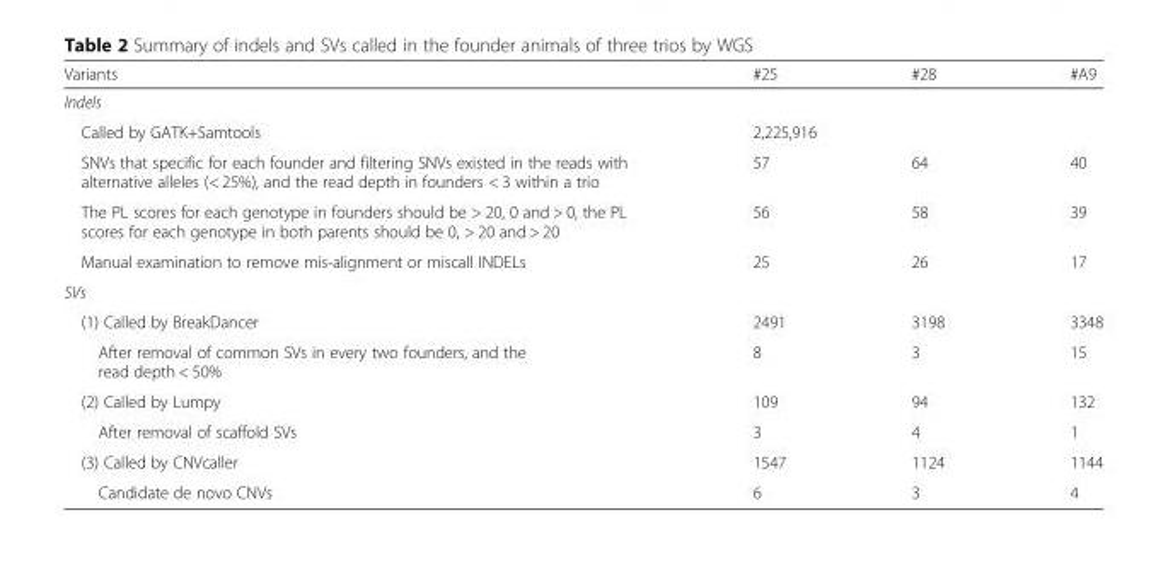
<table><thead><tr><td>Variants</td><td>#25</td><td>#28</td><td>#A9</td></tr></thead><tbody><tr><td colspan="4">Indels</td></tr><tr><td>Called by GATK+Samtools</td><td colspan="3">2,225,916</td></tr><tr><td>SNVs that specific for each founder and filtering SNVs existed in the reads with alternative alleles (&lt; 25%), and the read depth in founders &lt; 3 within a trio</td><td>57</td><td>64</td><td>40</td></tr><tr><td>The PL scores for each genotype in founders should be &gt; 20, 0 and &gt; 0, the PL scores for each genotype in both parents should be 0, &gt; 20 and &gt; 20</td><td>56</td><td>58</td><td>39</td></tr><tr><td>Manual examination to remove mis-alignment or miscall INDELs</td><td>25</td><td>26</td><td>17</td></tr><tr><td colspan="4">SVs</td></tr><tr><td>(1) Called by BreakDancer</td><td>2491</td><td>3198</td><td>3348</td></tr><tr><td>After removal of common SVs in every two founders, and the read depth &lt; 50%</td><td>8</td><td>3</td><td>15</td></tr><tr><td>(2) Called by Lumpy</td><td>109</td><td>94</td><td>132</td></tr><tr><td>After removal of scaffold SVs</td><td>3</td><td>4</td><td>1</td></tr><tr><td>(3) Called by CNVcaller</td><td>1547</td><td>1124</td><td>1144</td></tr><tr><td>Candidate de novo CNVs</td><td>6</td><td>3</td><td>4</td></tr></tbody></table>